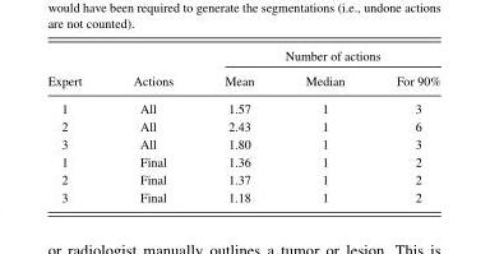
<table><thead><tr><td rowspan="2">Expert</td><td rowspan="2">Actions</td><td colspan="3">Number of actions</td></tr><tr><td>Mean</td><td>Median</td><td>For 90%</td></tr></thead><tbody><tr><td>1</td><td>All</td><td>1.57</td><td>1</td><td>3</td></tr><tr><td>2</td><td>All</td><td>2.43</td><td>1</td><td>6</td></tr><tr><td>3</td><td>All</td><td>1.80</td><td>1</td><td>3</td></tr><tr><td>1</td><td>Final</td><td>1.36</td><td>1</td><td>2</td></tr><tr><td>2</td><td>Final</td><td>1.37</td><td>1</td><td>2</td></tr><tr><td>3</td><td>Final</td><td>1.18</td><td>1</td><td>2</td></tr></tbody></table>